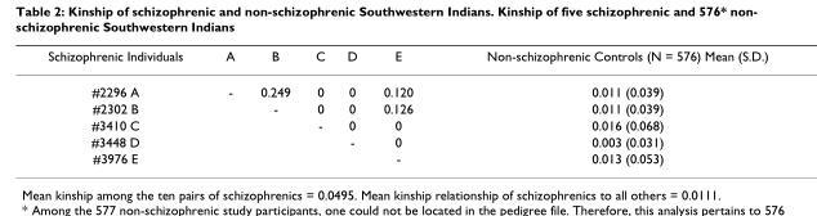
<table><thead><tr><td>Schizophrenic Individuals</td><td>A</td><td>B</td><td>C</td><td>D</td><td>E</td><td>Non-schizophrenic Controls (N = 576) Mean (S.D.)</td></tr></thead><tbody><tr><td>#2296 A</td><td>-</td><td>0.249</td><td>0</td><td>0</td><td>0.120</td><td>0.011 (0.039)</td></tr><tr><td>#2302 B</td><td></td><td>-</td><td>0</td><td>0</td><td>0.126</td><td>0.011 (0.039)</td></tr><tr><td>#3410 C</td><td></td><td></td><td>-</td><td>0</td><td>0</td><td>0.016 (0.068)</td></tr><tr><td>#3448 D</td><td></td><td></td><td></td><td>-</td><td>0</td><td>0.003 (0.031)</td></tr><tr><td>#3976 E</td><td></td><td></td><td></td><td></td><td>-</td><td>0.013 (0.053)</td></tr></tbody></table>